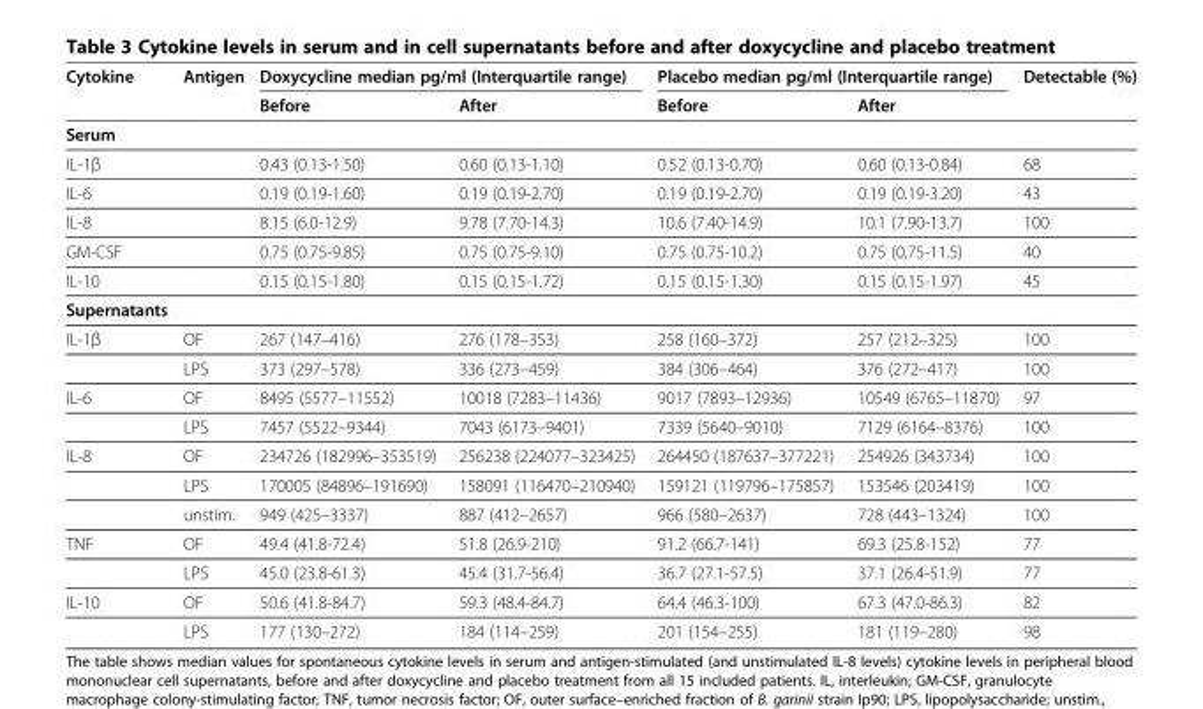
<table><thead><tr><td rowspan="2">Cytokine</td><td rowspan="2">Antigen</td><td colspan="2">Doxycycline median pg/ml (Interquartile range)</td><td colspan="2">Placebo median pg/ml (Interquartile range)</td><td rowspan="2">Detectable (%)</td></tr><tr><td>Before</td><td>After</td><td>Before</td><td>After</td></tr></thead><tbody><tr><td colspan="7">Serum</td></tr><tr><td>IL-1β</td><td></td><td>0.43 (0.13-1.50)</td><td>0.60 (0.13-1.10)</td><td>0.52 (0.13-0.70)</td><td>0.60 (0.13-0.84)</td><td>68</td></tr><tr><td>IL-6</td><td></td><td>0.19 (0.19-1.60)</td><td>0.19 (0.19-2.70)</td><td>0.19 (0.19-2.70)</td><td>0.19 (0.19-3.20)</td><td>43</td></tr><tr><td>IL-8</td><td></td><td>8.15 (6.0-12.9)</td><td>9.78 (7.70-14.3)</td><td>10.6 (7.40-14.9)</td><td>10.1 (7.90-13.7)</td><td>100</td></tr><tr><td>GM-CSF</td><td></td><td>0.75 (0.75-9.85)</td><td>0.75 (0.75-9.10)</td><td>0.75 (0.75-10.2)</td><td>0.75 (0.75-11.5)</td><td>40</td></tr><tr><td>IL-10</td><td></td><td>0.15 (0.15-1.80)</td><td>0.15 (0.15-1.72)</td><td>0.15 (0.15-1.30)</td><td>0.15 (0.15-1.97)</td><td>45</td></tr><tr><td colspan="7">Supernatants</td></tr><tr><td rowspan="2">IL-1β</td><td>OF</td><td>267 (147–416)</td><td>276 (178–353)</td><td>258 (160–372)</td><td>257 (212–325)</td><td>100</td></tr><tr><td>LPS</td><td>373 (297–578)</td><td>336 (273–459)</td><td>384 (306–464)</td><td>376 (272–417)</td><td>100</td></tr><tr><td rowspan="2">IL-6</td><td>OF</td><td>8495 (5577–11552)</td><td>10018 (7283–11436)</td><td>9017 (7893–12936)</td><td>10549 (6765–11870)</td><td>97</td></tr><tr><td>LPS</td><td>7457 (5522–9344)</td><td>7043 (6173–9401)</td><td>7339 (5640–9010)</td><td>7129 (6164–8376)</td><td>100</td></tr><tr><td rowspan="3">IL-8</td><td>OF</td><td>234726 (182996–353519)</td><td>256238 (224077–323425)</td><td>264450 (187637–377221)</td><td>254926 (343734)</td><td>100</td></tr><tr><td>LPS</td><td>170005 (84896–191690)</td><td>158091 (116470–210940)</td><td>159121 (119796–175857)</td><td>153546 (203419)</td><td>100</td></tr><tr><td>unstim.</td><td>949 (425–3337)</td><td>887 (412–2657)</td><td>966 (580–2637)</td><td>728 (443–1324)</td><td>100</td></tr><tr><td rowspan="2">TNF</td><td>OF</td><td>49.4 (41.8-72.4)</td><td>51.8 (26.9-210)</td><td>91.2 (66.7-141)</td><td>69.3 (25.8-152)</td><td>77</td></tr><tr><td>LPS</td><td>45.0 (23.8-61.3)</td><td>45.4 (31.7-56.4)</td><td>36.7 (27.1-57.5)</td><td>37.1 (26.4-51.9)</td><td>77</td></tr><tr><td rowspan="2">IL-10</td><td>OF</td><td>50.6 (41.8-84.7)</td><td>59.3 (48.4-84.7)</td><td>64.4 (46.3-100)</td><td>67.3 (47.0-86.3)</td><td>82</td></tr><tr><td>LPS</td><td>177 (130–272)</td><td>184 (114–259)</td><td>201 (154–255)</td><td>181 (119–280)</td><td>98</td></tr></tbody></table>